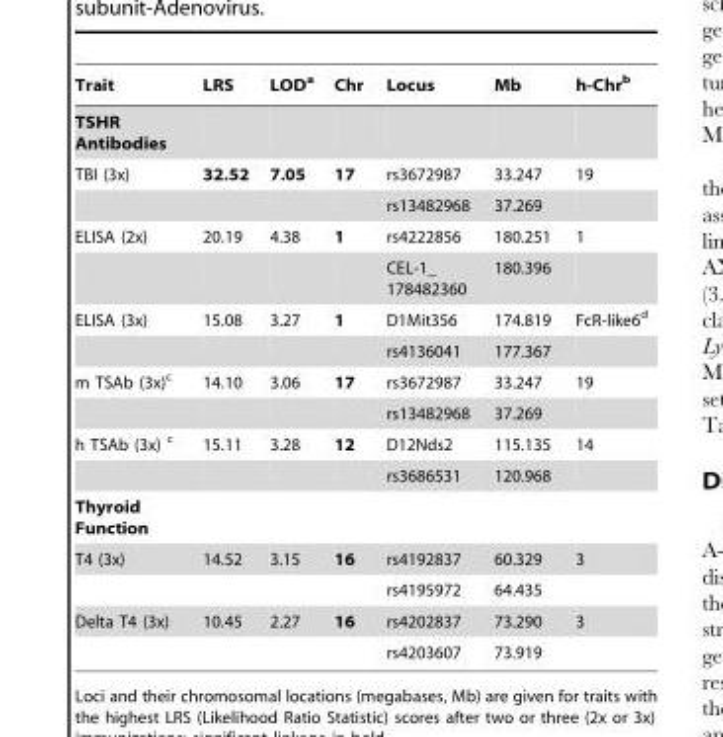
<table><thead><tr><td>Trait</td><td>LRS</td><td>LOD<sup>a</sup></td><td>Chr</td><td>Locus</td><td>Mb</td><td>h-Chr<sup>b</sup></td></tr></thead><tbody><tr><td colspan="7">TSHR Antibodies</td></tr><tr><td rowspan="2">TBI (3x)</td><td>32.52</td><td>7.05</td><td>17</td><td>rs3672987</td><td>33.247</td><td>19</td></tr><tr><td></td><td></td><td></td><td>rs13482968</td><td>37.269</td><td></td></tr><tr><td rowspan="2">ELISA (2x)</td><td>20.19</td><td>4.38</td><td>1</td><td>rs4222856</td><td>180.251</td><td>1</td></tr><tr><td></td><td></td><td></td><td>CEL-1_ 178482360</td><td>180.396</td><td></td></tr><tr><td rowspan="2">ELISA (3x)</td><td>15.08</td><td>3.27</td><td>1</td><td>D1Mit356</td><td>174.819</td><td>FcR-like6<sup>d</sup></td></tr><tr><td></td><td></td><td></td><td>rs4136041</td><td>177.367</td><td></td></tr><tr><td rowspan="2">m TSAb (3x)<sup>c</sup></td><td>14.10</td><td>3.06</td><td>17</td><td>rs3672987</td><td>33.247</td><td>19</td></tr><tr><td></td><td></td><td></td><td>rs13482968</td><td>37.269</td><td></td></tr><tr><td rowspan="2">h TSAb (3x) c</td><td>15.11</td><td>3.28</td><td>12</td><td>D12Nds2</td><td>115.135</td><td>14</td></tr><tr><td></td><td></td><td></td><td>rs3686531</td><td>120.968</td><td></td></tr><tr><td colspan="7">Thyroid Function</td></tr><tr><td rowspan="2">T4 (3x)</td><td>14.52</td><td>3.15</td><td>16</td><td>rs4192837</td><td>60.329</td><td>3</td></tr><tr><td></td><td></td><td></td><td>rs4195972</td><td>64.435</td><td></td></tr><tr><td rowspan="2">Delta T4 (3x)</td><td>10.45</td><td>2.27</td><td>16</td><td>rs4202837</td><td>73.290</td><td>3</td></tr><tr><td></td><td></td><td></td><td>rs4203607</td><td>73.919</td><td></td></tr></tbody></table>